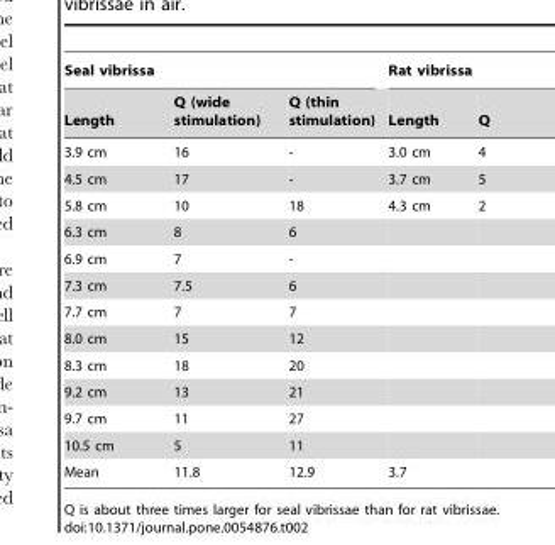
<table><thead><tr><td colspan="3">Seal vibrissa</td><td colspan="2">Rat vibrissa</td></tr><tr><td>Length</td><td>Q (wide stimulation)</td><td>Q (thin stimulation)</td><td>Length</td><td>Q</td></tr></thead><tbody><tr><td>3.9 cm</td><td>16</td><td>-</td><td>3.0 cm</td><td>4</td></tr><tr><td>4.5 cm</td><td>17</td><td>-</td><td>3.7 cm</td><td>5</td></tr><tr><td>5.8 cm</td><td>10</td><td>18</td><td>4.3 cm</td><td>2</td></tr><tr><td>6.3 cm</td><td>8</td><td>6</td><td></td><td></td></tr><tr><td>6.9 cm</td><td>7</td><td>-</td><td></td><td></td></tr><tr><td>7.3 cm</td><td>7.5</td><td>6</td><td></td><td></td></tr><tr><td>7.7 cm</td><td>7</td><td>7</td><td></td><td></td></tr><tr><td>8.0 cm</td><td>15</td><td>12</td><td></td><td></td></tr><tr><td>8.3 cm</td><td>18</td><td>20</td><td></td><td></td></tr><tr><td>9.2 cm</td><td>13</td><td>21</td><td></td><td></td></tr><tr><td>9.7 cm</td><td>11</td><td>27</td><td></td><td></td></tr><tr><td>10.5 cm</td><td>5</td><td>11</td><td></td><td></td></tr><tr><td>Mean</td><td>11.8</td><td>12.9</td><td>3.7</td><td></td></tr></tbody></table>